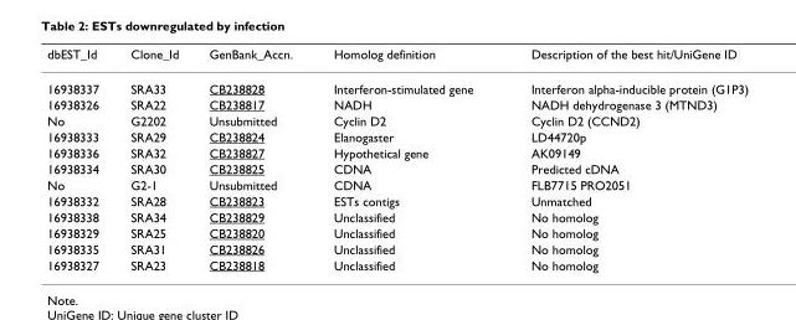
<table><thead><tr><td>dbEST_Id</td><td>Clone_Id</td><td>GenBank_Accn.</td><td>Homolog definition</td><td>Description of the best hit/UniGene ID</td></tr></thead><tbody><tr><td>16938337</td><td>SRA33</td><td>CB238828</td><td>Interferon-stimulated gene</td><td>Interferon alpha-inducible protein (G1P3)</td></tr><tr><td>16938326</td><td>SRA22</td><td>CB238817</td><td>NADH</td><td>NADH dehydrogenase 3 (MTND3)</td></tr><tr><td>No</td><td>G2202</td><td>Unsubmitted</td><td>Cyclin D2</td><td>Cyclin D2 (CCND2)</td></tr><tr><td>16938333</td><td>SRA29</td><td>CB238824</td><td>Elanogaster</td><td>LD44720p</td></tr><tr><td>16938336</td><td>SRA32</td><td>CB238827</td><td>Hypothetical gene</td><td>AK09149</td></tr><tr><td>16938334</td><td>SRA30</td><td>CB238825</td><td>CDNA</td><td>Predicted cDNA</td></tr><tr><td>No</td><td>G2-1</td><td>Unsubmitted</td><td>CDNA</td><td>FLB7715 PRO2051</td></tr><tr><td>16938332</td><td>SRA28</td><td>CB238823</td><td>ESTs contigs</td><td>Unmatched</td></tr><tr><td>16938338</td><td>SRA34</td><td>CB238829</td><td>Unclassified</td><td>No homolog</td></tr><tr><td>16938329</td><td>SRA25</td><td>CB238820</td><td>Unclassified</td><td>No homolog</td></tr><tr><td>16938335</td><td>SRA31</td><td>CB238826</td><td>Unclassified</td><td>No homolog</td></tr><tr><td>16938327</td><td>SRA23</td><td>CB238818</td><td>Unclassified</td><td>No homolog</td></tr></tbody></table>